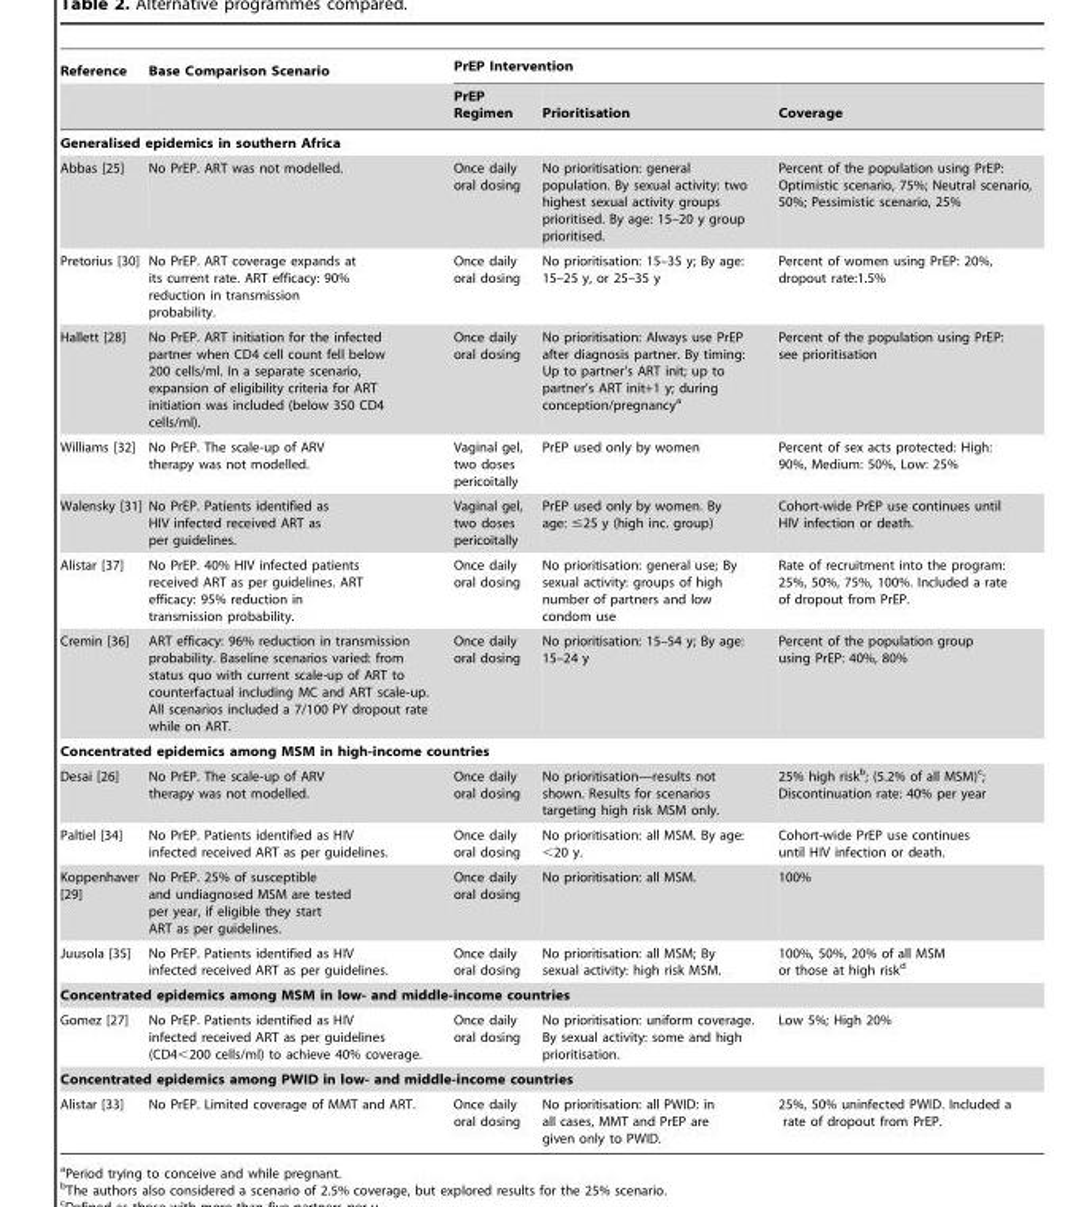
<table><thead><tr><td rowspan="2">Reference</td><td rowspan="2">Base Comparison Scenario</td><td colspan="3">PrEP Intervention</td></tr><tr><td>PrEP Regimen</td><td>Prioritisation</td><td>Coverage</td></tr></thead><tbody><tr><td colspan="5">Generalised epidemics in southern Africa</td></tr><tr><td>Abbas [25]</td><td>No PrEP. ART was not modelled.</td><td>Once daily oral dosing</td><td>No prioritisation: general population. By sexual activity: two highest sexual activity groups prioritised. By age: 15–20 y group prioritised.</td><td>Percent of the population using PrEP: Optimistic scenario, 75%; Neutral scenario, 50%; Pessimistic scenario, 25%</td></tr><tr><td>Pretorius [30]</td><td>No PrEP. ART coverage expands at its current rate. ART efficacy: 90% reduction in transmission probability.</td><td>Once daily oral dosing</td><td>No prioritisation: 15–35 y; By age: 15–25 y, or 25–35 y</td><td>Percent of women using PrEP: 20%, dropout rate:1.5%</td></tr><tr><td>Hallett [28]</td><td>No PrEP. ART initiation for the infected partner when CD4 cell count fell below 200 cells/ml. In a separate scenario, expansion of eligibility criteria for ART initiation was included (below 350 CD4 cells/ml).</td><td>Once daily oral dosing</td><td>No prioritisation: Always use PrEP after diagnosis partner. By timing: Up to partner’s ART init; up to partner’s ART init+1 y; during conception/pregnancy<sup>a</sup></td><td>Percent of the population using PrEP: see prioritisation</td></tr><tr><td>Williams [32]</td><td>No PrEP. The scale-up of ARV therapy was not modelled.</td><td>Vaginal gel, two doses pericoitally</td><td>PrEP used only by women</td><td>Percent of sex acts protected: High: 90%, Medium: 50%, Low: 25%</td></tr><tr><td>Walensky [31]</td><td>No PrEP. Patients identified as HIV infected received ART as per guidelines.</td><td>Vaginal gel, two doses pericoitally</td><td>PrEP used only by women. By age: ≤25 y (high inc. group)</td><td>Cohort-wide PrEP use continues until HIV infection or death.</td></tr><tr><td>Alistar [37]</td><td>No PrEP. 40% HIV infected patients received ART as per guidelines. ART efficacy: 95% reduction in transmission probability.</td><td>Once daily oral dosing</td><td>No prioritisation: general use; By sexual activity: groups of high number of partners and low condom use</td><td>Rate of recruitment into the program: 25%, 50%, 75%, 100%. Included a rate of dropout from PrEP.</td></tr><tr><td>Cremin [36]</td><td>ART efficacy: 96% reduction in transmission probability. Baseline scenarios varied: from status quo with current scale-up of ART to counterfactual including MC and ART scale-up. All scenarios included a 7/100 PY dropout rate while on ART.</td><td>Once daily oral dosing</td><td>No prioritisation: 15–54 y; By age: 15–24 y</td><td>Percent of the population group using PrEP: 40%, 80%</td></tr><tr><td colspan="5">Concentrated epidemics among MSM in high-income countries</td></tr><tr><td>Desai [26]</td><td>No PrEP. The scale-up of ARV therapy was not modelled.</td><td>Once daily oral dosing</td><td>No prioritisation—results not shown. Results for scenarios targeting high risk MSM only.</td><td>25% high risk<sup>b</sup>; (5.2% of all MSM)<sup>c</sup>; Discontinuation rate: 40% per year</td></tr><tr><td>Paltiel [34]</td><td>No PrEP. Patients identified as HIV infected received ART as per guidelines.</td><td>Once daily oral dosing</td><td>No prioritisation: all MSM. By age: &lt;20 y.</td><td>Cohort-wide PrEP use continues until HIV infection or death.</td></tr><tr><td>Koppenhaver [29]</td><td>No PrEP. 25% of susceptible and undiagnosed MSM are tested per year, if eligible they start ART as per guidelines.</td><td>Once daily oral dosing</td><td>No prioritisation: all MSM.</td><td>100%</td></tr><tr><td>Juusola [35]</td><td>No PrEP. Patients identified as HIV infected received ART as per guidelines.</td><td>Once daily oral dosing</td><td>No prioritisation: all MSM; By sexual activity: high risk MSM.</td><td>100%, 50%, 20% of all MSM or those at high risk<sup>d</sup></td></tr><tr><td colspan="5">Concentrated epidemics among MSM in low- and middle-income countries</td></tr><tr><td>Gomez [27]</td><td>No PrEP. Patients identified as HIV infected received ART as per guidelines (CD4&lt;200 cells/ml) to achieve 40% coverage.</td><td>Once daily oral dosing</td><td>No prioritisation: uniform coverage. By sexual activity: some and high prioritisation.</td><td>Low 5%; High 20%</td></tr><tr><td colspan="5">Concentrated epidemics among PWID in low- and middle-income countries</td></tr><tr><td>Alistar [33]</td><td>No PrEP. Limited coverage of MMT and ART.</td><td>Once daily oral dosing</td><td>No prioritisation: all PWID: in all cases, MMT and PrEP are given only to PWID.</td><td>25%, 50% uninfected PWID. Included a rate of dropout from PrEP.</td></tr></tbody></table>